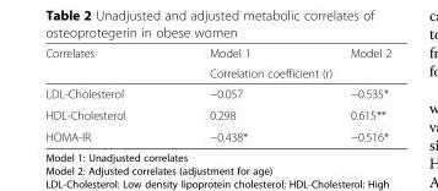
<table><thead><tr><td rowspan="2">Correlates</td><td>Model 1</td><td>Model 2</td></tr><tr><td colspan="2">Correlation coefficient (r)</td></tr></thead><tbody><tr><td>LDL-Cholesterol</td><td>−0.057</td><td>−0.535*</td></tr><tr><td>HDL-Cholesterol</td><td>0.298</td><td>0.615**</td></tr><tr><td>HOMA-IR</td><td>−0.438*</td><td>−0.516*</td></tr></tbody></table>